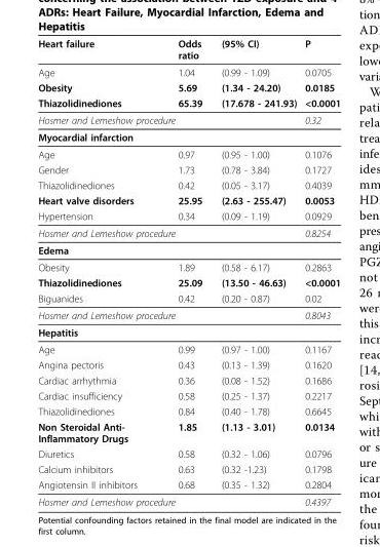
<table><thead><tr><td>Heart failure</td><td>Odds ratio</td><td>(95% CI)</td><td>P</td></tr></thead><tbody><tr><td>Age</td><td>1.04</td><td>(0.99 - 1.09)</td><td>0.0705</td></tr><tr><td>Obesity</td><td>5.69</td><td>(1.34 - 24.20)</td><td>0.0185</td></tr><tr><td>Thiazolidinediones</td><td>65.39</td><td>(17.678 - 241.93)</td><td>&lt;0.0001</td></tr><tr><td colspan="3">Hosmer and Lemeshow procedure</td><td>0.32</td></tr><tr><td colspan="4">Myocardial infarction</td></tr><tr><td>Age</td><td>0.97</td><td>(0.95 - 1.00)</td><td>0.1076</td></tr><tr><td>Gender</td><td>1.73</td><td>(0.78 - 3.84)</td><td>0.1727</td></tr><tr><td>Thiazolidinediones</td><td>0.42</td><td>(0.05 - 3.17)</td><td>0.4039</td></tr><tr><td>Heart valve disorders</td><td>25.95</td><td>(2.63 - 255.47)</td><td>0.0053</td></tr><tr><td>Hypertension</td><td>0.34</td><td>(0.09 - 1.19)</td><td>0.0929</td></tr><tr><td colspan="3">Hosmer and Lemeshow procedure</td><td>0.8254</td></tr><tr><td colspan="4">Edema</td></tr><tr><td>Obesity</td><td>1.89</td><td>(0.58 - 6.17)</td><td>0.2863</td></tr><tr><td>Thiazolidinediones</td><td>25.09</td><td>(13.50 - 46.63)</td><td>&lt;0.0001</td></tr><tr><td>Biguanides</td><td>0.42</td><td>(0.20 - 0.87)</td><td>0.02</td></tr><tr><td colspan="3">Hosmer and Lemeshow procedure</td><td>0.8043</td></tr><tr><td colspan="4">Hepatitis</td></tr><tr><td>Age</td><td>0.99</td><td>(0.97 - 1.00)</td><td>0.1167</td></tr><tr><td>Angina pectoris</td><td>0.43</td><td>(0.13 - 1.39)</td><td>0.1620</td></tr><tr><td>Cardiac arrhythmia</td><td>0.36</td><td>(0.08 - 1.52)</td><td>0.1686</td></tr><tr><td>Cardiac insufficiency</td><td>0.58</td><td>(0.25 - 1.37)</td><td>0.2217</td></tr><tr><td>Thiazolidinediones</td><td>0.84</td><td>(0.40 - 1.78)</td><td>0.6645</td></tr><tr><td>Non Steroidal Anti- Inflammatory Drugs</td><td>1.85</td><td>(1.13 - 3.01)</td><td>0.0134</td></tr><tr><td>Diuretics</td><td>0.58</td><td>(0.32 - 1.06)</td><td>0.0796</td></tr><tr><td>Calcium inhibitors</td><td>0.63</td><td>(0.32 -1.23)</td><td>0.1798</td></tr><tr><td>Angiotensin II inhibitors</td><td>0.68</td><td>(0.35 - 1.32)</td><td>0.2804</td></tr><tr><td colspan="3">Hosmer and Lemeshow procedure</td><td>0.4397</td></tr></tbody></table>